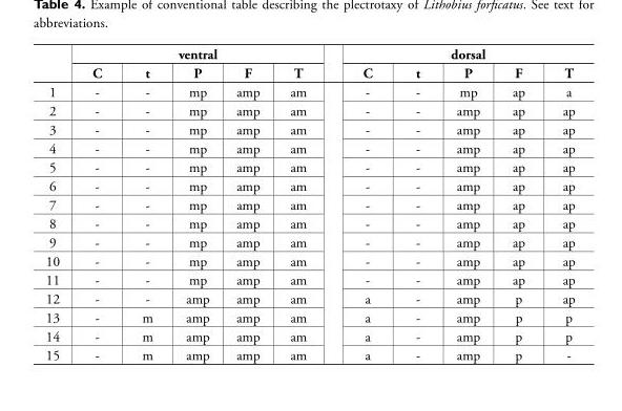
<table><thead><tr><td rowspan="2"></td><td colspan="5">ventral</td><td colspan="5">dorsal</td></tr><tr><td>C</td><td>t</td><td>P</td><td>F</td><td>T</td><td>C</td><td>t</td><td>P</td><td>F</td><td>T</td></tr></thead><tbody><tr><td>1</td><td>-</td><td>-</td><td>mp</td><td>amp</td><td>am</td><td>-</td><td>-</td><td>mp</td><td>ap</td><td>a</td></tr><tr><td>2</td><td>-</td><td>-</td><td>mp</td><td>amp</td><td>am</td><td>-</td><td>-</td><td>amp</td><td>ap</td><td>ap</td></tr><tr><td>3</td><td>-</td><td>-</td><td>mp</td><td>amp</td><td>am</td><td>-</td><td>-</td><td>amp</td><td>ap</td><td>ap</td></tr><tr><td>4</td><td>-</td><td>-</td><td>mp</td><td>amp</td><td>am</td><td>-</td><td>-</td><td>amp</td><td>ap</td><td>ap</td></tr><tr><td>5</td><td>-</td><td>-</td><td>mp</td><td>amp</td><td>am</td><td>-</td><td>-</td><td>amp</td><td>ap</td><td>ap</td></tr><tr><td>6</td><td>-</td><td>-</td><td>mp</td><td>amp</td><td>am</td><td>-</td><td>-</td><td>amp</td><td>ap</td><td>ap</td></tr><tr><td>7</td><td>-</td><td>-</td><td>mp</td><td>amp</td><td>am</td><td>-</td><td>-</td><td>amp</td><td>ap</td><td>ap</td></tr><tr><td>8</td><td>-</td><td>-</td><td>mp</td><td>amp</td><td>am</td><td>-</td><td>-</td><td>amp</td><td>ap</td><td>ap</td></tr><tr><td>9</td><td>-</td><td>-</td><td>mp</td><td>amp</td><td>am</td><td>-</td><td>-</td><td>amp</td><td>ap</td><td>ap</td></tr><tr><td>10</td><td>-</td><td>-</td><td>mp</td><td>amp</td><td>am</td><td>-</td><td>-</td><td>amp</td><td>ap</td><td>ap</td></tr><tr><td>11</td><td>-</td><td>-</td><td>mp</td><td>amp</td><td>am</td><td>-</td><td>-</td><td>amp</td><td>ap</td><td>ap</td></tr><tr><td>12</td><td>-</td><td>-</td><td>amp</td><td>amp</td><td>am</td><td>a</td><td>-</td><td>amp</td><td>p</td><td>ap</td></tr><tr><td>13</td><td>-</td><td>m</td><td>amp</td><td>amp</td><td>am</td><td>a</td><td>-</td><td>amp</td><td>p</td><td>p</td></tr><tr><td>14</td><td>-</td><td>m</td><td>amp</td><td>amp</td><td>am</td><td>a</td><td>-</td><td>amp</td><td>p</td><td>p</td></tr><tr><td>15</td><td>-</td><td>m</td><td>amp</td><td>amp</td><td>am</td><td>a</td><td>-</td><td>amp</td><td>p</td><td>-</td></tr></tbody></table>